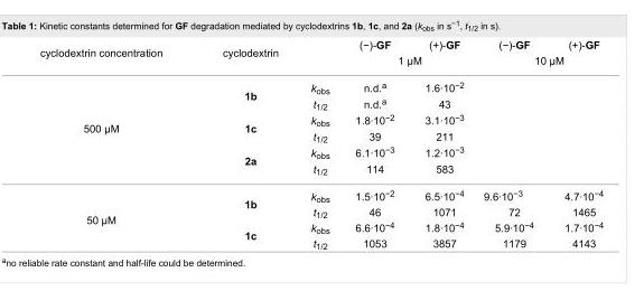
<table><tbody><tr><td rowspan="2">cyclodextrin concentration</td><td rowspan="2">cyclodextrin</td><td rowspan="2"></td><td>(−)-GF</td><td>(+)-GF</td><td>(−)-GF</td><td>(+)-GF</td></tr><tr><td colspan="2">1 μM</td><td colspan="2">10 μM</td></tr><tr><td rowspan="6">500 μM</td><td rowspan="2">1b</td><td>k<sub>obs</sub></td><td>n.d.<sup>a</sup></td><td>1.6·10<sup>−2</sup></td><td></td><td></td></tr><tr><td>t<sub>1/2</sub></td><td>n.d.<sup>a</sup></td><td>43</td><td></td><td></td></tr><tr><td rowspan="2">1c</td><td>k<sub>obs</sub></td><td>1.8·10<sup>−2</sup></td><td>3.1·10<sup>−3</sup></td><td></td><td></td></tr><tr><td>t<sub>1/2</sub></td><td>39</td><td>211</td><td></td><td></td></tr><tr><td rowspan="2">2a</td><td>k<sub>obs</sub></td><td>6.1·10<sup>−3</sup></td><td>1.2·10<sup>−3</sup></td><td></td><td></td></tr><tr><td>t<sub>1/2</sub></td><td>114</td><td>583</td><td></td><td></td></tr><tr><td rowspan="4">50 μM</td><td rowspan="2">1b</td><td>k<sub>obs</sub></td><td>1.5·10<sup>−2</sup></td><td>6.5·10<sup>−4</sup></td><td>9.6·10<sup>−3</sup></td><td>4.7·10<sup>−4</sup></td></tr><tr><td>t<sub>1/2</sub></td><td>46</td><td>1071</td><td>72</td><td>1465</td></tr><tr><td rowspan="2">1c</td><td>k<sub>obs</sub></td><td>6.6·10<sup>−4</sup></td><td>1.8·10<sup>−4</sup></td><td>5.9·10<sup>−4</sup></td><td>1.7·10<sup>−4</sup></td></tr><tr><td>t<sub>1/2</sub></td><td>1053</td><td>3857</td><td>1179</td><td>4143</td></tr></tbody></table>